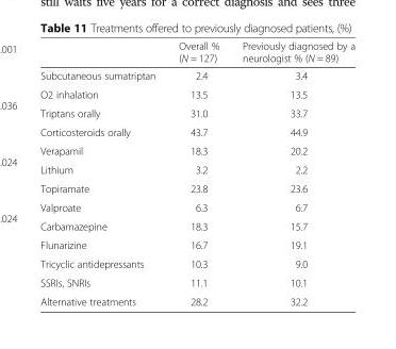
<table><thead><tr><td></td><td>Overall % (N = 127)</td><td>Previously diagnosed by a neurologist % (N = 89)</td></tr></thead><tbody><tr><td>Subcutaneous sumatriptan</td><td>2.4</td><td>3.4</td></tr><tr><td>O2 inhalation</td><td>13.5</td><td>13.5</td></tr><tr><td>Triptans orally</td><td>31.0</td><td>33.7</td></tr><tr><td>Corticosteroids orally</td><td>43.7</td><td>44.9</td></tr><tr><td>Verapamil</td><td>18.3</td><td>20.2</td></tr><tr><td>Lithium</td><td>3.2</td><td>2.2</td></tr><tr><td>Topiramate</td><td>23.8</td><td>23.6</td></tr><tr><td>Valproate</td><td>6.3</td><td>6.7</td></tr><tr><td>Carbamazepine</td><td>18.3</td><td>15.7</td></tr><tr><td>Flunarizine</td><td>16.7</td><td>19.1</td></tr><tr><td>Tricyclic antidepressants</td><td>10.3</td><td>9.0</td></tr><tr><td>SSRIs, SNRIs</td><td>11.1</td><td>10.1</td></tr><tr><td>Alternative treatments</td><td>28.2</td><td>32.2</td></tr></tbody></table>